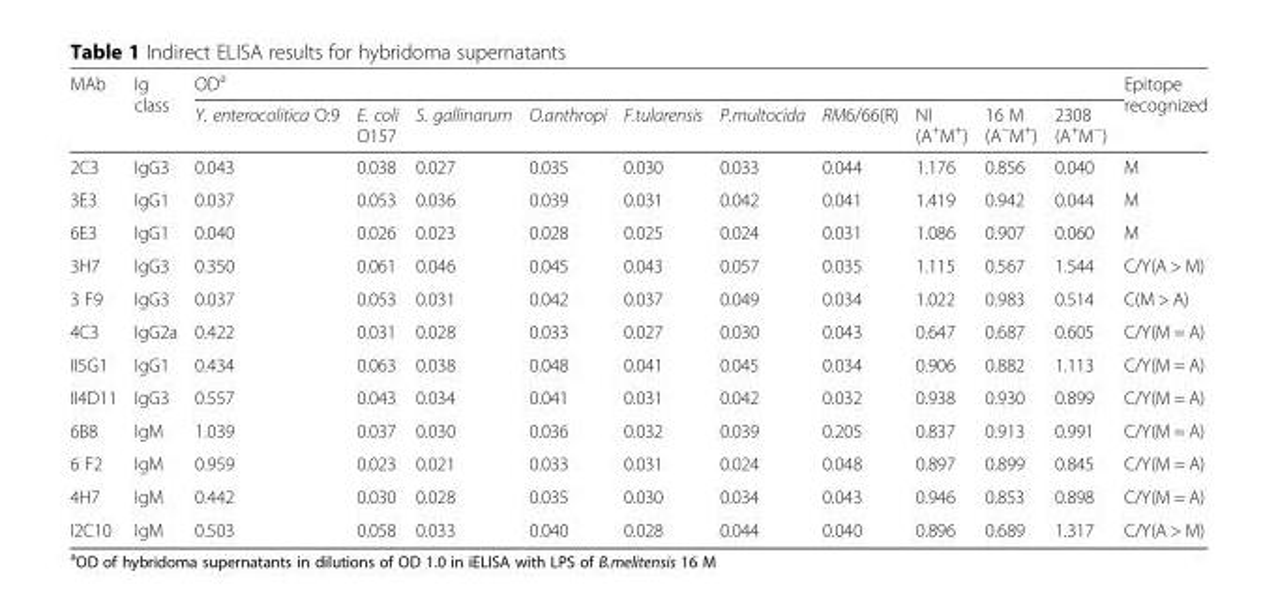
<table><thead><tr><td rowspan="2">MAb</td><td rowspan="2">Ig class</td><td colspan="10">OD<sup>a</sup></td><td rowspan="2">Epitope recognized</td></tr><tr><td>Y. enterocolitica O:9</td><td>E. coli O157</td><td>S. gallinarum</td><td>O.anthropi</td><td>F.tularensis</td><td>P.multocida</td><td>RM6/66(R)</td><td>NI (A<sup>+</sup>M<sup>+</sup>)</td><td>16 M (A<sup>−</sup>M<sup>+</sup>)</td><td>2308 (A<sup>+</sup>M<sup>−</sup>)</td></tr></thead><tbody><tr><td>2C3</td><td>IgG3</td><td>0.043</td><td>0.038</td><td>0.027</td><td>0.035</td><td>0.030</td><td>0.033</td><td>0.044</td><td>1.176</td><td>0.856</td><td>0.040</td><td>M</td></tr><tr><td>3E3</td><td>IgG1</td><td>0.037</td><td>0.053</td><td>0.036</td><td>0.039</td><td>0.031</td><td>0.042</td><td>0.041</td><td>1.419</td><td>0.942</td><td>0.044</td><td>M</td></tr><tr><td>6E3</td><td>IgG1</td><td>0.040</td><td>0.026</td><td>0.023</td><td>0.028</td><td>0.025</td><td>0.024</td><td>0.031</td><td>1.086</td><td>0.907</td><td>0.060</td><td>M</td></tr><tr><td>3H7</td><td>IgG3</td><td>0.350</td><td>0.061</td><td>0.046</td><td>0.045</td><td>0.043</td><td>0.057</td><td>0.035</td><td>1.115</td><td>0.567</td><td>1.544</td><td>C/Y(A &gt; M)</td></tr><tr><td>3 F9</td><td>IgG3</td><td>0.037</td><td>0.053</td><td>0.031</td><td>0.042</td><td>0.037</td><td>0.049</td><td>0.034</td><td>1.022</td><td>0.983</td><td>0.514</td><td>C(M &gt; A)</td></tr><tr><td>4C3</td><td>IgG2a</td><td>0.422</td><td>0.031</td><td>0.028</td><td>0.033</td><td>0.027</td><td>0.030</td><td>0.043</td><td>0.647</td><td>0.687</td><td>0.605</td><td>C/Y(M = A)</td></tr><tr><td>II5G1</td><td>IgG1</td><td>0.434</td><td>0.063</td><td>0.038</td><td>0.048</td><td>0.041</td><td>0.045</td><td>0.034</td><td>0.906</td><td>0.882</td><td>1.113</td><td>C/Y(M = A)</td></tr><tr><td>II4D11</td><td>IgG3</td><td>0.557</td><td>0.043</td><td>0.034</td><td>0.041</td><td>0.031</td><td>0.042</td><td>0.032</td><td>0.938</td><td>0.930</td><td>0.899</td><td>C/Y(M = A)</td></tr><tr><td>6B8</td><td>IgM</td><td>1.039</td><td>0.037</td><td>0.030</td><td>0.036</td><td>0.032</td><td>0.039</td><td>0.205</td><td>0.837</td><td>0.913</td><td>0.991</td><td>C/Y(M = A)</td></tr><tr><td>6 F2</td><td>IgM</td><td>0.959</td><td>0.023</td><td>0.021</td><td>0.033</td><td>0.031</td><td>0.024</td><td>0.048</td><td>0.897</td><td>0.899</td><td>0.845</td><td>C/Y(M = A)</td></tr><tr><td>4H7</td><td>IgM</td><td>0.442</td><td>0.030</td><td>0.028</td><td>0.035</td><td>0.030</td><td>0.034</td><td>0.043</td><td>0.946</td><td>0.853</td><td>0.898</td><td>C/Y(M = A)</td></tr><tr><td>I2C10</td><td>IgM</td><td>0.503</td><td>0.058</td><td>0.033</td><td>0.040</td><td>0.028</td><td>0.044</td><td>0.040</td><td>0.896</td><td>0.689</td><td>1.317</td><td>C/Y(A &gt; M)</td></tr></tbody></table>